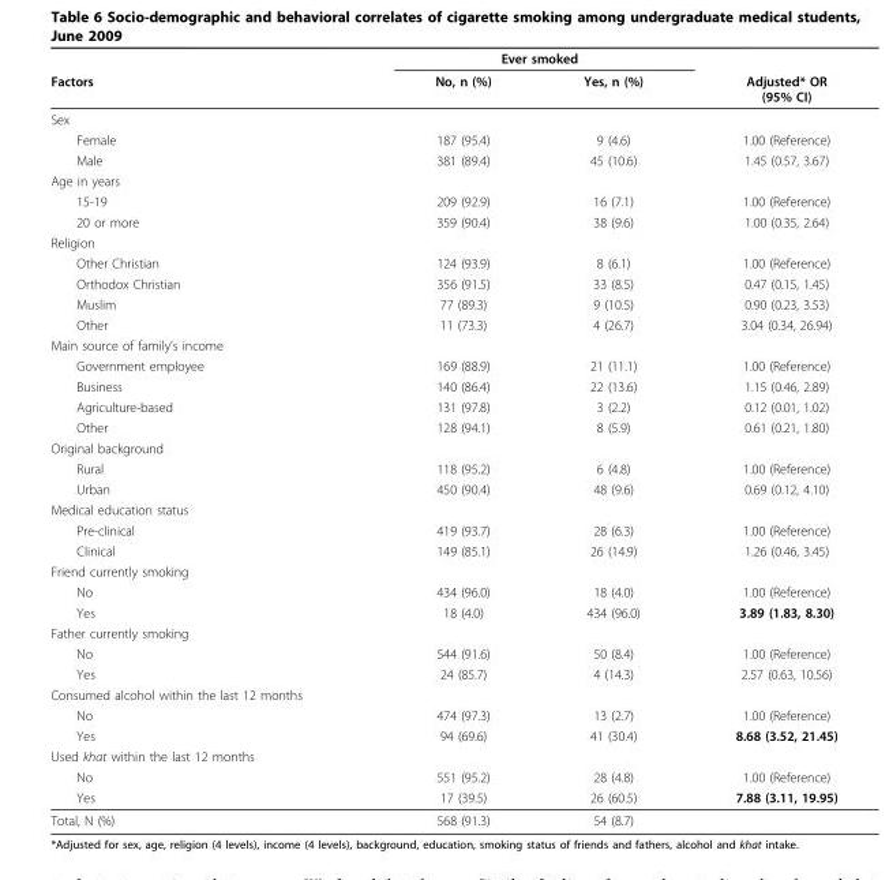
<table><thead><tr><td rowspan="2">Factors</td><td colspan="2">Ever smoked</td><td rowspan="2">Adjusted* OR (95% CI)</td></tr><tr><td>No, n (%)</td><td>Yes, n (%)</td></tr></thead><tbody><tr><td colspan="4">Sex</td></tr><tr><td>Female</td><td>187 (95.4)</td><td>9 (4.6)</td><td>1.00 (Reference)</td></tr><tr><td>Male</td><td>381 (89.4)</td><td>45 (10.6)</td><td>1.45 (0.57, 3.67)</td></tr><tr><td colspan="4">Age in years</td></tr><tr><td>15-19</td><td>209 (92.9)</td><td>16 (7.1)</td><td>1.00 (Reference)</td></tr><tr><td>20 or more</td><td>359 (90.4)</td><td>38 (9.6)</td><td>1.00 (0.35, 2.64)</td></tr><tr><td colspan="4">Religion</td></tr><tr><td>Other Christian</td><td>124 (93.9)</td><td>8 (6.1)</td><td>1.00 (Reference)</td></tr><tr><td>Orthodox Christian</td><td>356 (91.5)</td><td>33 (8.5)</td><td>0.47 (0.15, 1.45)</td></tr><tr><td>Muslim</td><td>77 (89.3)</td><td>9 (10.5)</td><td>0.90 (0.23, 3.53)</td></tr><tr><td>Other</td><td>11 (73.3)</td><td>4 (26.7)</td><td>3.04 (0.34, 26.94)</td></tr><tr><td colspan="4">Main source of family’s income</td></tr><tr><td>Government employee</td><td>169 (88.9)</td><td>21 (11.1)</td><td>1.00 (Reference)</td></tr><tr><td>Business</td><td>140 (86.4)</td><td>22 (13.6)</td><td>1.15 (0.46, 2.89)</td></tr><tr><td>Agriculture-based</td><td>131 (97.8)</td><td>3 (2.2)</td><td>0.12 (0.01, 1.02)</td></tr><tr><td>Other</td><td>128 (94.1)</td><td>8 (5.9)</td><td>0.61 (0.21, 1.80)</td></tr><tr><td colspan="4">Original background</td></tr><tr><td>Rural</td><td>118 (95.2)</td><td>6 (4.8)</td><td>1.00 (Reference)</td></tr><tr><td>Urban</td><td>450 (90.4)</td><td>48 (9.6)</td><td>0.69 (0.12, 4.10)</td></tr><tr><td colspan="4">Medical education status</td></tr><tr><td>Pre-clinical</td><td>419 (93.7)</td><td>28 (6.3)</td><td>1.00 (Reference)</td></tr><tr><td>Clinical</td><td>149 (85.1)</td><td>26 (14.9)</td><td>1.26 (0.46, 3.45)</td></tr><tr><td colspan="4">Friend currently smoking</td></tr><tr><td>No</td><td>434 (96.0)</td><td>18 (4.0)</td><td>1.00 (Reference)</td></tr><tr><td>Yes</td><td>18 (4.0)</td><td>434 (96.0)</td><td>3.89 (1.83, 8.30)</td></tr><tr><td colspan="4">Father currently smoking</td></tr><tr><td>No</td><td>544 (91.6)</td><td>50 (8.4)</td><td>1.00 (Reference)</td></tr><tr><td>Yes</td><td>24 (85.7)</td><td>4 (14.3)</td><td>2.57 (0.63, 10.56)</td></tr><tr><td colspan="4">Consumed alcohol within the last 12 months</td></tr><tr><td>No</td><td>474 (97.3)</td><td>13 (2.7)</td><td>1.00 (Reference)</td></tr><tr><td>Yes</td><td>94 (69.6)</td><td>41 (30.4)</td><td>8.68 (3.52, 21.45)</td></tr><tr><td colspan="4">Used khat within the last 12 months</td></tr><tr><td>No</td><td>551 (95.2)</td><td>28 (4.8)</td><td>1.00 (Reference)</td></tr><tr><td>Yes</td><td>17 (39.5)</td><td>26 (60.5)</td><td>7.88 (3.11, 19.95)</td></tr><tr><td>Total, N (%)</td><td>568 (91.3)</td><td>54 (8.7)</td><td></td></tr></tbody></table>